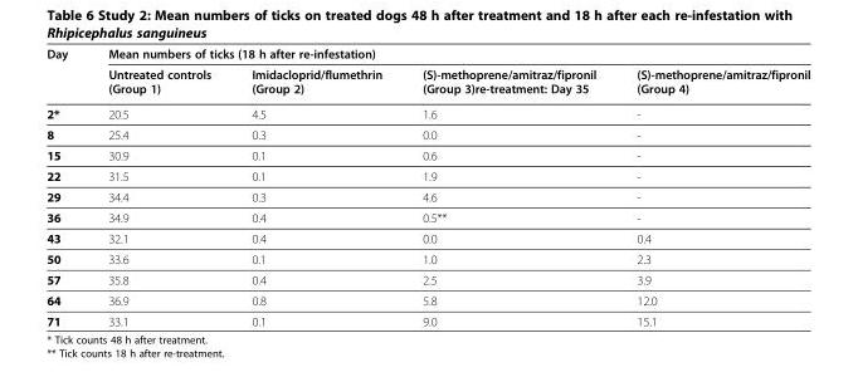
<table><thead><tr><td rowspan="2">Day</td><td colspan="4">Mean numbers of ticks (18 h after re-infestation)</td></tr><tr><td>Untreated controls (Group 1)</td><td>Imidacloprid/flumethrin (Group 2)</td><td>(S)-methoprene/amitraz/fipronil (Group 3)re-treatment: Day 35</td><td>(S)-methoprene/amitraz/fipronil (Group 4)</td></tr></thead><tbody><tr><td>2*</td><td>20.5</td><td>4.5</td><td>1.6</td><td>-</td></tr><tr><td>8</td><td>25.4</td><td>0.3</td><td>0.0</td><td>-</td></tr><tr><td>15</td><td>30.9</td><td>0.1</td><td>0.6</td><td>-</td></tr><tr><td>22</td><td>31.5</td><td>0.1</td><td>1.9</td><td>-</td></tr><tr><td>29</td><td>34.4</td><td>0.3</td><td>4.6</td><td>-</td></tr><tr><td>36</td><td>34.9</td><td>0.4</td><td>0.5**</td><td>-</td></tr><tr><td>43</td><td>32.1</td><td>0.4</td><td>0.0</td><td>0.4</td></tr><tr><td>50</td><td>33.6</td><td>0.1</td><td>1.0</td><td>2.3</td></tr><tr><td>57</td><td>35.8</td><td>0.4</td><td>2.5</td><td>3.9</td></tr><tr><td>64</td><td>36.9</td><td>0.8</td><td>5.8</td><td>12.0</td></tr><tr><td>71</td><td>33.1</td><td>0.1</td><td>9.0</td><td>15.1</td></tr></tbody></table>